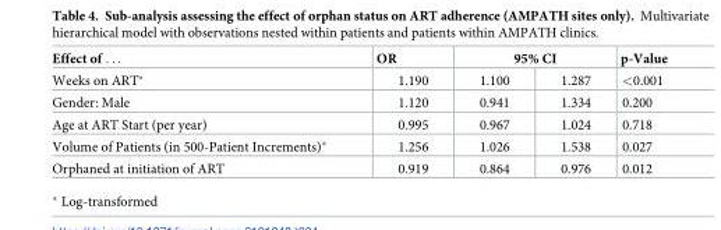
<table><thead><tr><td rowspan="2">Effect of . . . Weeks on ART�</td><td rowspan="2">OR 1.190</td><td colspan="2">95% CI</td><td rowspan="2">p-Value &lt;0.001</td></tr><tr><td>1.100</td><td>1.287</td></tr></thead><tbody><tr><td>Gender: Male</td><td>1.120</td><td>0.941</td><td>1.334</td><td>0.200</td></tr><tr><td>Age at ART Start (per year)</td><td>0.995</td><td>0.967</td><td>1.024</td><td>0.718</td></tr><tr><td>Volume of Patients (in 500-Patient Increments)*</td><td>1.256</td><td>1.026</td><td>1.538</td><td>0.027</td></tr><tr><td>Orphaned at initiation of ART</td><td>0.919</td><td>0.864</td><td>0.976</td><td>0.012</td></tr></tbody></table>